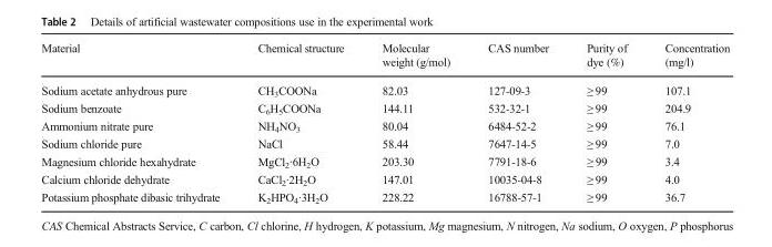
<table><thead><tr><td>Material</td><td>Chemical structure</td><td>Molecular weight (g/mol)</td><td>CAS number</td><td>Purity of dye (%)</td><td>Concentration (mg/l)</td></tr></thead><tbody><tr><td>Sodium acetate anhydrous pure</td><td>CH<sub>3</sub>COONa</td><td>82.03</td><td>127-09-3</td><td>≥ 99</td><td>107.1</td></tr><tr><td>Sodium benzoate</td><td>C<sub>6</sub>H<sub>5</sub>COONa</td><td>144.11</td><td>532-32-1</td><td>≥ 99</td><td>204.9</td></tr><tr><td>Ammonium nitrate pure</td><td>NH<sub>4</sub>NO<sub>3</sub></td><td>80.04</td><td>6484-52-2</td><td>≥ 99</td><td>76.1</td></tr><tr><td>Sodium chloride pure</td><td>NaCl</td><td>58.44</td><td>7647-14-5</td><td>≥ 99</td><td>7.0</td></tr><tr><td>Magnesium chloride hexahydrate</td><td>MgCl<sub>2</sub>·6H<sub>2</sub>O</td><td>203.30</td><td>7791-18-6</td><td>≥ 99</td><td>3.4</td></tr><tr><td>Calcium chloride dehydrate</td><td>CaCl<sub>2</sub>·2H<sub>2</sub>O</td><td>147.01</td><td>10035-04-8</td><td>≥ 99</td><td>4.0</td></tr><tr><td>Potassium phosphate dibasic trihydrate</td><td>K<sub>2</sub>HPO<sub>4</sub>·3H<sub>2</sub>O</td><td>228.22</td><td>16788-57-1</td><td>≥ 99</td><td>36.7</td></tr></tbody></table>